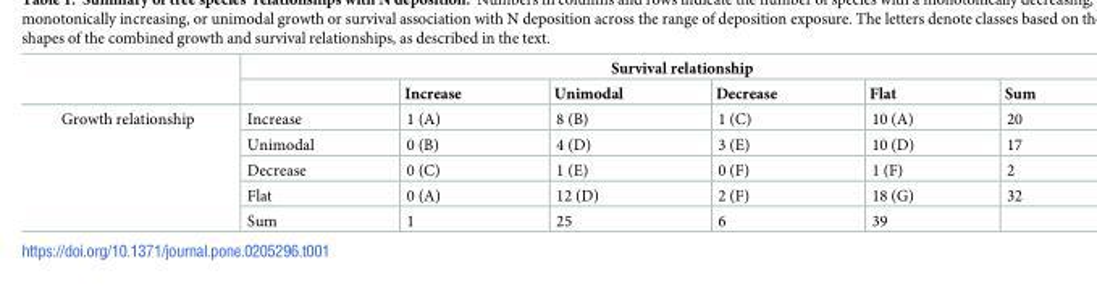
<table><thead><tr><td rowspan="2"></td><td colspan="6">Survival relationship</td></tr><tr><td></td><td>Increase</td><td>Unimodal</td><td>Decrease</td><td>Flat</td><td>Sum</td></tr></thead><tbody><tr><td rowspan="5">Growth relationship</td><td>Increase</td><td>1 (A)</td><td>8 (B)</td><td>1 (C)</td><td>10 (A)</td><td>20</td></tr><tr><td>Unimodal</td><td>0 (B)</td><td>4 (D)</td><td>3 (E)</td><td>10 (D)</td><td>17</td></tr><tr><td>Decrease</td><td>0 (C)</td><td>1 (E)</td><td>0 (F)</td><td>1 (F)</td><td>2</td></tr><tr><td>Flat</td><td>0 (A)</td><td>12 (D)</td><td>2 (F)</td><td>18 (G)</td><td>32</td></tr><tr><td>Sum</td><td>1</td><td>25</td><td>6</td><td>39</td><td></td></tr></tbody></table>